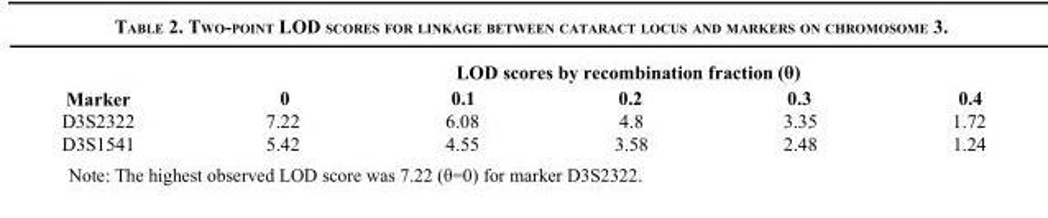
<table><thead><tr><td rowspan="2">Marker</td><td colspan="5">LOD scores by recombination fraction (θ)</td></tr><tr><td>0</td><td>0.1</td><td>0.2</td><td>0.3</td><td>0.4</td></tr></thead><tbody><tr><td>D3S2322</td><td>7.22</td><td>6.08</td><td>4.8</td><td>3.35</td><td>1.72</td></tr><tr><td>D3S1541</td><td>5.42</td><td>4.55</td><td>3.58</td><td>2.48</td><td>1.24</td></tr></tbody></table>